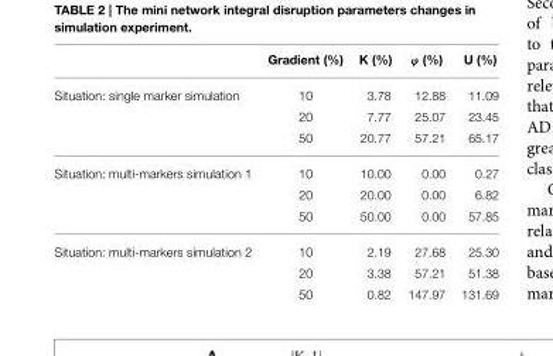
<table><thead><tr><td></td><td>Gradient (%)</td><td>K (%)</td><td>ϕ (%)</td><td>U (%)</td></tr></thead><tbody><tr><td rowspan="3">Situation: single marker simulation</td><td>10</td><td>3.78</td><td>12.88</td><td>11.09</td></tr><tr><td>20</td><td>7.77</td><td>25.07</td><td>23.45</td></tr><tr><td>50</td><td>20.77</td><td>57.21</td><td>65.17</td></tr><tr><td rowspan="3">Situation: multi-markers simulation 1</td><td>10</td><td>10.00</td><td>0.00</td><td>0.27</td></tr><tr><td>20</td><td>20.00</td><td>0.00</td><td>6.82</td></tr><tr><td>50</td><td>50.00</td><td>0.00</td><td>57.85</td></tr><tr><td rowspan="3">Situation: multi-markers simulation 2</td><td>10</td><td>2.19</td><td>27.68</td><td>25.30</td></tr><tr><td>20</td><td>3.38</td><td>57.21</td><td>51.38</td></tr><tr><td>50</td><td>0.82</td><td>147.97</td><td>131.69</td></tr></tbody></table>